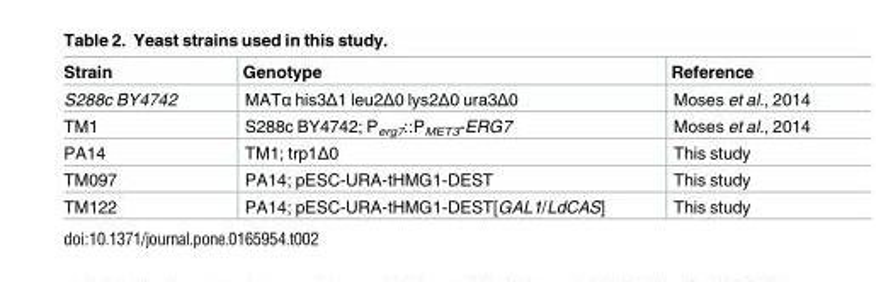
<table><thead><tr><td>Strain</td><td>Genotype</td><td>Reference</td></tr></thead><tbody><tr><td>S288c BY4742</td><td>MATα his3Δ1 leu2Δ0 lys2Δ0 ura3Δ0</td><td>Moses et al., 2014</td></tr><tr><td>TM1</td><td>S288c BY4742; P<sub>erg7</sub>::P<sub>MET3</sub>-ERG7</td><td>Moses et al., 2014</td></tr><tr><td>PA14</td><td>TM1; trp1Δ0</td><td>This study</td></tr><tr><td>TM097</td><td>PA14; pESC-URA-tHMG1-DEST</td><td>This study</td></tr><tr><td>TM122</td><td>PA14; pESC-URA-tHMG1-DEST[GAL1/LdCAS]</td><td>This study</td></tr></tbody></table>